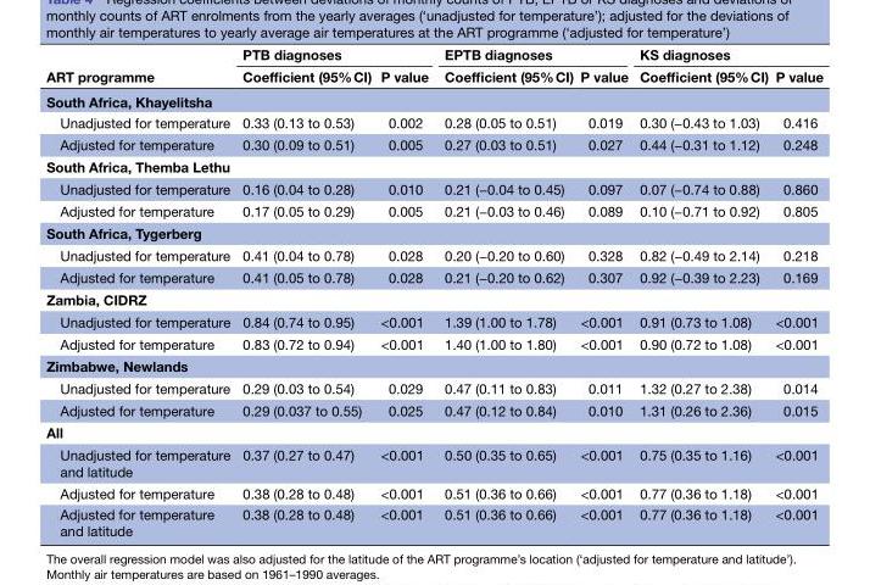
<table><thead><tr><td rowspan="2">ART programme</td><td colspan="2">PTB diagnoses</td><td colspan="2">EPTB diagnoses</td><td colspan="2">KS diagnoses</td></tr><tr><td>Coefficient (95% CI)</td><td>P value</td><td>Coefficient (95% CI)</td><td>P value</td><td>Coefficient (95% CI)</td><td>P value</td></tr></thead><tbody><tr><td colspan="7">South Africa, Khayelitsha</td></tr><tr><td>Unadjusted for temperature</td><td>0.33 (0.13 to 0.53)</td><td>0.002</td><td>0.28 (0.05 to 0.51)</td><td>0.019</td><td>0.30 (−0.43 to 1.03)</td><td>0.416</td></tr><tr><td>Adjusted for temperature</td><td>0.30 (0.09 to 0.51)</td><td>0.005</td><td>0.27 (0.03 to 0.51)</td><td>0.027</td><td>0.44 (−0.31 to 1.12)</td><td>0.248</td></tr><tr><td colspan="7">South Africa, Themba Lethu</td></tr><tr><td>Unadjusted for temperature</td><td>0.16 (0.04 to 0.28)</td><td>0.010</td><td>0.21 (−0.04 to 0.45)</td><td>0.097</td><td>0.07 (−0.74 to 0.88)</td><td>0.860</td></tr><tr><td>Adjusted for temperature</td><td>0.17 (0.05 to 0.29)</td><td>0.005</td><td>0.21 (−0.03 to 0.46)</td><td>0.089</td><td>0.10 (−0.71 to 0.92)</td><td>0.805</td></tr><tr><td colspan="7">South Africa, Tygerberg</td></tr><tr><td>Unadjusted for temperature</td><td>0.41 (0.04 to 0.78)</td><td>0.028</td><td>0.20 (−0.20 to 0.60)</td><td>0.328</td><td>0.82 (−0.49 to 2.14)</td><td>0.218</td></tr><tr><td>Adjusted for temperature</td><td>0.41 (0.05 to 0.78)</td><td>0.028</td><td>0.21 (−0.20 to 0.62)</td><td>0.307</td><td>0.92 (−0.39 to 2.23)</td><td>0.169</td></tr><tr><td colspan="7">Zambia, CIDRZ</td></tr><tr><td>Unadjusted for temperature</td><td>0.84 (0.74 to 0.95)</td><td>&lt;0.001</td><td>1.39 (1.00 to 1.78)</td><td>&lt;0.001</td><td>0.91 (0.73 to 1.08)</td><td>&lt;0.001</td></tr><tr><td>Adjusted for temperature</td><td>0.83 (0.72 to 0.94)</td><td>&lt;0.001</td><td>1.40 (1.00 to 1.80)</td><td>&lt;0.001</td><td>0.90 (0.72 to 1.08)</td><td>&lt;0.001</td></tr><tr><td colspan="7">Zimbabwe, Newlands</td></tr><tr><td>Unadjusted for temperature</td><td>0.29 (0.03 to 0.54)</td><td>0.029</td><td>0.47 (0.11 to 0.83)</td><td>0.011</td><td>1.32 (0.27 to 2.38)</td><td>0.014</td></tr><tr><td>Adjusted for temperature</td><td>0.29 (0.037 to 0.55)</td><td>0.025</td><td>0.47 (0.12 to 0.84)</td><td>0.010</td><td>1.31 (0.26 to 2.36)</td><td>0.015</td></tr><tr><td colspan="7">All</td></tr><tr><td>Unadjusted for temperature and latitude</td><td>0.37 (0.27 to 0.47)</td><td>&lt;0.001</td><td>0.50 (0.35 to 0.65)</td><td>&lt;0.001</td><td>0.75 (0.35 to 1.16)</td><td>&lt;0.001</td></tr><tr><td>Adjusted for temperature</td><td>0.38 (0.28 to 0.48)</td><td>&lt;0.001</td><td>0.51 (0.36 to 0.66)</td><td>&lt;0.001</td><td>0.77 (0.36 to 1.18)</td><td>&lt;0.001</td></tr><tr><td>Adjusted for temperature and latitude</td><td>0.38 (0.28 to 0.48)</td><td>&lt;0.001</td><td>0.51 (0.36 to 0.66)</td><td>&lt;0.001</td><td>0.77 (0.36 to 1.18)</td><td>&lt;0.001</td></tr></tbody></table>